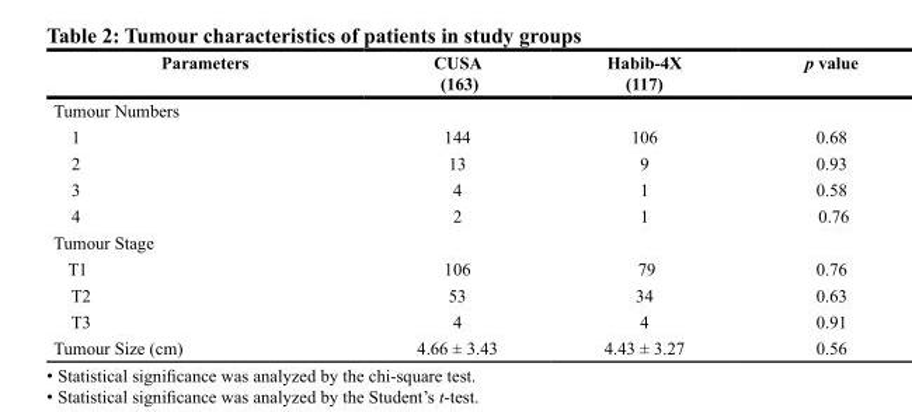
<table><thead><tr><td>Parameters</td><td>CUSA (163)</td><td>Habib-4X (117)</td><td>p value</td></tr></thead><tbody><tr><td colspan="4">Tumour Numbers</td></tr><tr><td>1</td><td>144</td><td>106</td><td>0.68</td></tr><tr><td>2</td><td>13</td><td>9</td><td>0.93</td></tr><tr><td>3</td><td>4</td><td>1</td><td>0.58</td></tr><tr><td>4</td><td>2</td><td>1</td><td>0.76</td></tr><tr><td colspan="4">Tumour Stage</td></tr><tr><td>T1</td><td>106</td><td>79</td><td>0.76</td></tr><tr><td>T2</td><td>53</td><td>34</td><td>0.63</td></tr><tr><td>T3</td><td>4</td><td>4</td><td>0.91</td></tr><tr><td>Tumour Size (cm)</td><td>4.66 ± 3.43</td><td>4.43 ± 3.27</td><td>0.56</td></tr></tbody></table>